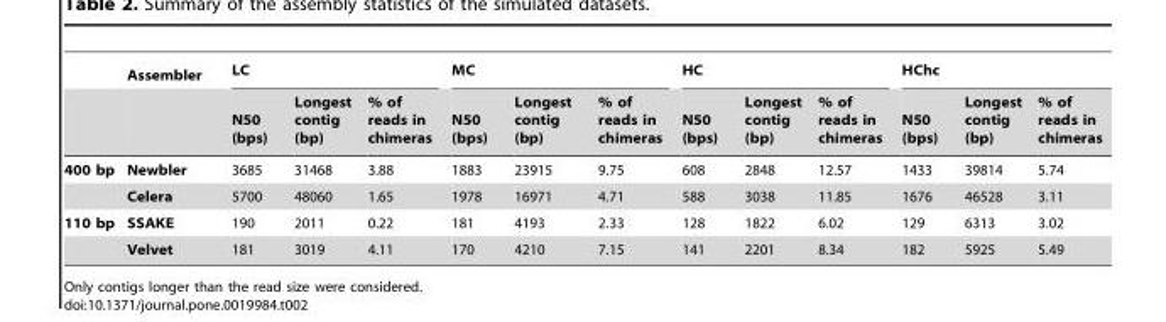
<table><thead><tr><td rowspan="2"></td><td rowspan="2">Assembler</td><td colspan="3">LC</td><td colspan="3">MC</td><td colspan="3">HC</td><td colspan="3">HChc</td></tr><tr><td>N50 (bps)</td><td>Longest contig (bp)</td><td>% of reads in chimeras</td><td>N50 (bps)</td><td>Longest contig (bp)</td><td>% of reads in chimeras</td><td>N50 (bps)</td><td>Longest contig (bp)</td><td>% of reads in chimeras</td><td>N50 (bps)</td><td>Longest contig (bp)</td><td>% of reads in chimeras</td></tr></thead><tbody><tr><td rowspan="2">400 bp</td><td>Newbler</td><td>3685</td><td>31468</td><td>3.88</td><td>1883</td><td>23915</td><td>9.75</td><td>608</td><td>2848</td><td>12.57</td><td>1433</td><td>39814</td><td>5.74</td></tr><tr><td>Celera</td><td>5700</td><td>48060</td><td>1.65</td><td>1978</td><td>16971</td><td>4.71</td><td>588</td><td>3038</td><td>11.85</td><td>1676</td><td>46528</td><td>3.11</td></tr><tr><td rowspan="2">110 bp</td><td>SSAKE</td><td>190</td><td>2011</td><td>0.22</td><td>181</td><td>4193</td><td>2.33</td><td>128</td><td>1822</td><td>6.02</td><td>129</td><td>6313</td><td>3.02</td></tr><tr><td>Velvet</td><td>181</td><td>3019</td><td>4.11</td><td>170</td><td>4210</td><td>7.15</td><td>141</td><td>2201</td><td>8.34</td><td>182</td><td>5925</td><td>5.49</td></tr></tbody></table>